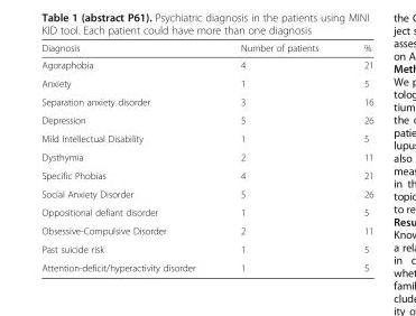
<table><thead><tr><td>Diagnosis</td><td>Number of patients</td><td>%</td></tr></thead><tbody><tr><td>Agoraphobia</td><td>4</td><td>21</td></tr><tr><td>Anxiety</td><td>1</td><td>5</td></tr><tr><td>Separation anxiety disorder</td><td>3</td><td>16</td></tr><tr><td>Depression</td><td>5</td><td>26</td></tr><tr><td>Mild Intellectual Disability</td><td>1</td><td>5</td></tr><tr><td>Dysthymia</td><td>2</td><td>11</td></tr><tr><td>Specific Phobias</td><td>4</td><td>21</td></tr><tr><td>Social Anxiety Disorder</td><td>5</td><td>26</td></tr><tr><td>Oppositional defiant disorder</td><td>1</td><td>5</td></tr><tr><td>Obsessive-Compulsive Disorder</td><td>2</td><td>11</td></tr><tr><td>Past suicide risk</td><td>1</td><td>5</td></tr><tr><td>Attention-deficit/hyperactivity disorder</td><td>1</td><td>5</td></tr></tbody></table>